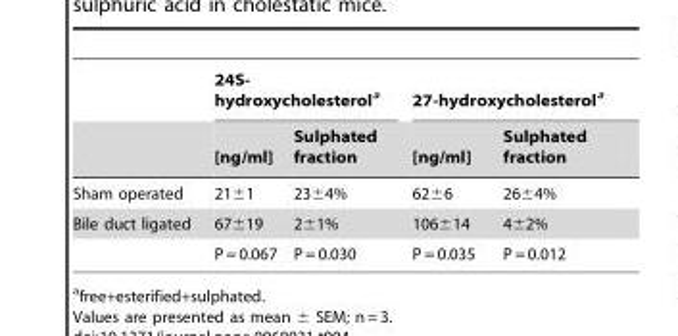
<table><thead><tr><td rowspan="2"></td><td colspan="2">24S- hydroxycholesterol<sup>a</sup></td><td colspan="2">27-hydroxycholesterol<sup>a</sup></td></tr><tr><td>[ng/ml]</td><td>Sulphated fraction</td><td>[ng/ml]</td><td>Sulphated fraction</td></tr></thead><tbody><tr><td>Sham operated</td><td>21±1</td><td>23±4%</td><td>62±6</td><td>26±4%</td></tr><tr><td rowspan="2">Bile duct ligated</td><td>67±19</td><td>2±1%</td><td>106±14</td><td>4±2%</td></tr><tr><td>P = 0.067</td><td>P = 0.030</td><td>P = 0.035</td><td>P = 0.012</td></tr></tbody></table>